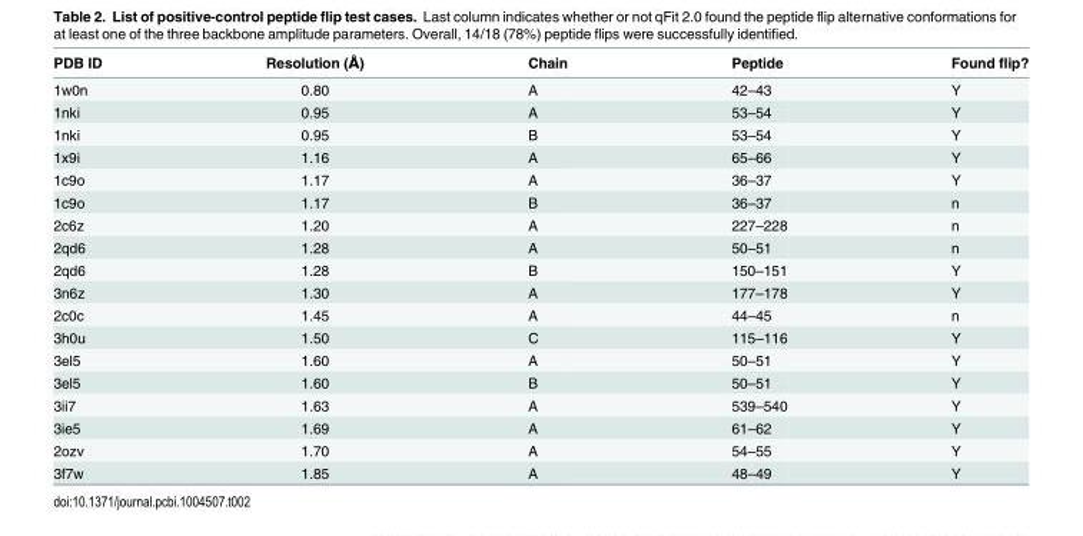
<table><thead><tr><td>PDB ID</td><td>Resolution (Å)</td><td>Chain</td><td>Peptide</td><td>Found flip?</td></tr></thead><tbody><tr><td>1w0n</td><td>0.80</td><td>A</td><td>42–43</td><td>Y</td></tr><tr><td>1nki</td><td>0.95</td><td>A</td><td>53–54</td><td>Y</td></tr><tr><td>1nki</td><td>0.95</td><td>B</td><td>53–54</td><td>Y</td></tr><tr><td>1x9i</td><td>1.16</td><td>A</td><td>65–66</td><td>Y</td></tr><tr><td>1c9o</td><td>1.17</td><td>A</td><td>36–37</td><td>Y</td></tr><tr><td>1c9o</td><td>1.17</td><td>B</td><td>36–37</td><td>n</td></tr><tr><td>2c6z</td><td>1.20</td><td>A</td><td>227–228</td><td>n</td></tr><tr><td>2qd6</td><td>1.28</td><td>A</td><td>50–51</td><td>n</td></tr><tr><td>2qd6</td><td>1.28</td><td>B</td><td>150–151</td><td>Y</td></tr><tr><td>3n6z</td><td>1.30</td><td>A</td><td>177–178</td><td>Y</td></tr><tr><td>2c0c</td><td>1.45</td><td>A</td><td>44–45</td><td>n</td></tr><tr><td>3h0u</td><td>1.50</td><td>C</td><td>115–116</td><td>Y</td></tr><tr><td>3el5</td><td>1.60</td><td>A</td><td>50–51</td><td>Y</td></tr><tr><td>3el5</td><td>1.60</td><td>B</td><td>50–51</td><td>Y</td></tr><tr><td>3ii7</td><td>1.63</td><td>A</td><td>539–540</td><td>Y</td></tr><tr><td>3ie5</td><td>1.69</td><td>A</td><td>61–62</td><td>Y</td></tr><tr><td>2ozv</td><td>1.70</td><td>A</td><td>54–55</td><td>Y</td></tr><tr><td>3f7w</td><td>1.85</td><td>A</td><td>48–49</td><td>Y</td></tr></tbody></table>